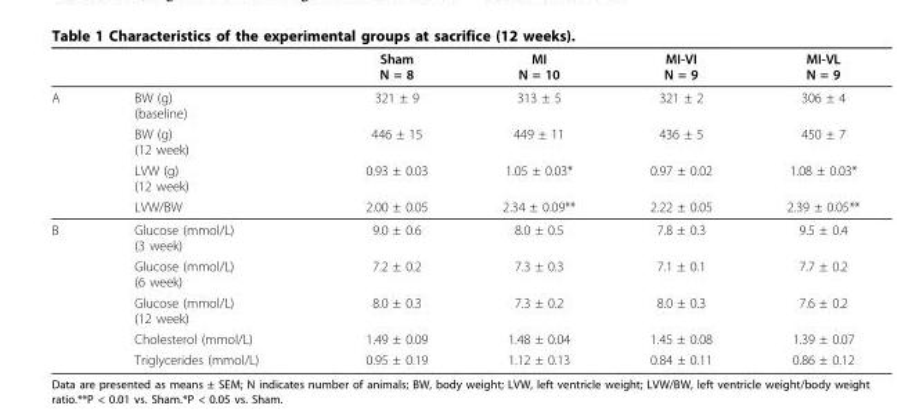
<table><thead><tr><td></td><td></td><td>Sham N = 8</td><td>MI N = 10</td><td>MI-VI N = 9</td><td>MI-VL N = 9</td></tr></thead><tbody><tr><td rowspan="4">A</td><td>BW (g) (baseline)</td><td>321 ± 9</td><td>313 ± 5</td><td>321 ± 2</td><td>306 ± 4</td></tr><tr><td>BW (g) (12 week)</td><td>446 ± 15</td><td>449 ± 11</td><td>436 ± 5</td><td>450 ± 7</td></tr><tr><td>LVW (g) (12 week)</td><td>0.93 ± 0.03</td><td>1.05 ± 0.03*</td><td>0.97 ± 0.02</td><td>1.08 ± 0.03*</td></tr><tr><td>LVW/BW</td><td>2.00 ± 0.05</td><td>2.34 ± 0.09**</td><td>2.22 ± 0.05</td><td>2.39 ± 0.05**</td></tr><tr><td rowspan="5">B</td><td>Glucose (mmol/L) (3 week)</td><td>9.0 ± 0.6</td><td>8.0 ± 0.5</td><td>7.8 ± 0.3</td><td>9.5 ± 0.4</td></tr><tr><td>Glucose (mmol/L) (6 week)</td><td>7.2 ± 0.2</td><td>7.3 ± 0.3</td><td>7.1 ± 0.1</td><td>7.7 ± 0.2</td></tr><tr><td>Glucose (mmol/L) (12 week)</td><td>8.0 ± 0.3</td><td>7.3 ± 0.2</td><td>8.0 ± 0.3</td><td>7.6 ± 0.2</td></tr><tr><td>Cholesterol (mmol/L)</td><td>1.49 ± 0.09</td><td>1.48 ± 0.04</td><td>1.45 ± 0.08</td><td>1.39 ± 0.07</td></tr><tr><td>Triglycerides (mmol/L)</td><td>0.95 ± 0.19</td><td>1.12 ± 0.13</td><td>0.84 ± 0.11</td><td>0.86 ± 0.12</td></tr></tbody></table>